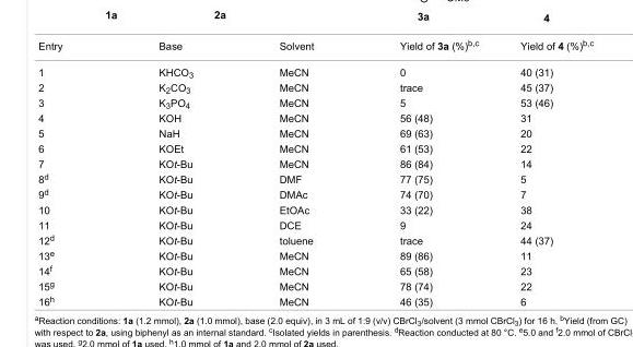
<table><tbody><tr><td>Entry</td><td>Base</td><td>Solvent</td><td>Yield of 3a (%)<sup>b,c</sup></td><td>Yield of 4 (%)<sup>b,c</sup></td></tr><tr><td>1</td><td>KHCO<sub>3</sub></td><td>MeCN</td><td>0</td><td>40 (31)</td></tr><tr><td>2</td><td>K<sub>2</sub>CO<sub>3</sub></td><td>MeCN</td><td>trace</td><td>45 (37)</td></tr><tr><td>3</td><td>K<sub>3</sub>PO<sub>4</sub></td><td>MeCN</td><td>5</td><td>53 (46)</td></tr><tr><td>4</td><td>KOH</td><td>MeCN</td><td>56 (48)</td><td>31</td></tr><tr><td>5</td><td>NaH</td><td>MeCN</td><td>69 (63)</td><td>20</td></tr><tr><td>6</td><td>KOEt</td><td>MeCN</td><td>61 (53)</td><td>22</td></tr><tr><td>7</td><td>KOt-Bu</td><td>MeCN</td><td>86 (84)</td><td>14</td></tr><tr><td>8<sup>d</sup></td><td>KOt-Bu</td><td>DMF</td><td>77 (75)</td><td>5</td></tr><tr><td>9<sup>d</sup></td><td>KOt-Bu</td><td>DMAc</td><td>74 (70)</td><td>7</td></tr><tr><td>10</td><td>KOt-Bu</td><td>EtOAc</td><td>33 (22)</td><td>38</td></tr><tr><td>11</td><td>KOt-Bu</td><td>DCE</td><td>9</td><td>24</td></tr><tr><td>12<sup>d</sup></td><td>KOt-Bu</td><td>toluene</td><td>trace</td><td>44 (37)</td></tr><tr><td>13<sup>e</sup></td><td>KOt-Bu</td><td>MeCN</td><td>89 (86)</td><td>11</td></tr><tr><td>14<sup>f</sup></td><td>KOt-Bu</td><td>MeCN</td><td>65 (58)</td><td>23</td></tr><tr><td>15<sup>g</sup></td><td>KOt-Bu</td><td>MeCN</td><td>78 (74)</td><td>22</td></tr><tr><td>16<sup>h</sup></td><td>KOt-Bu</td><td>MeCN</td><td>46 (35)</td><td>6</td></tr></tbody></table>